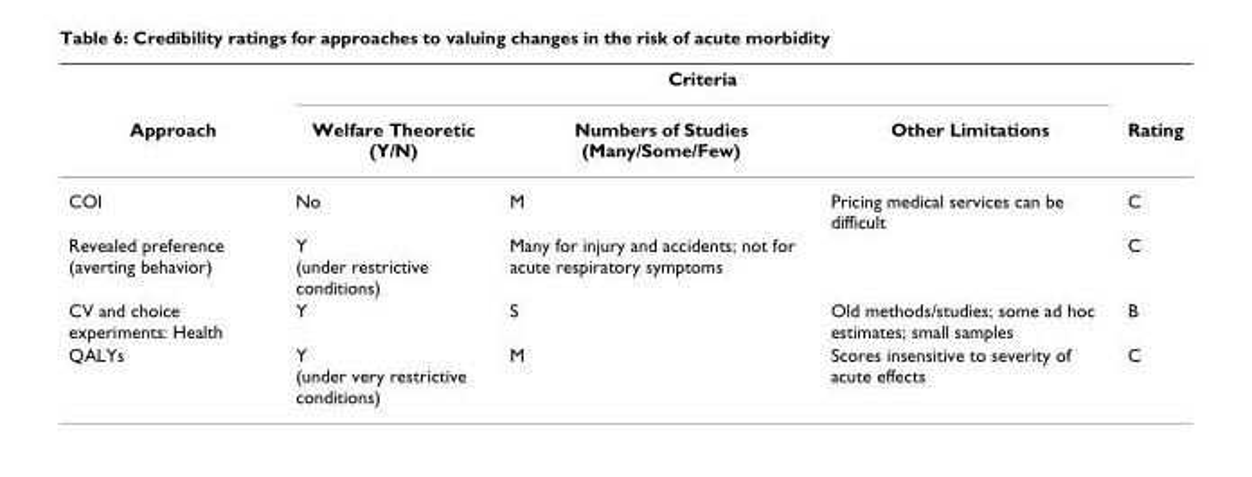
<table><thead><tr><td rowspan="2">Approach</td><td colspan="3">Criteria</td><td rowspan="2">Rating</td></tr><tr><td>Welfare Theoretic (Y/N)</td><td>Numbers of Studies (Many/Some/Few)</td><td>Other Limitations</td></tr></thead><tbody><tr><td>COI</td><td>No</td><td>M</td><td>Pricing medical services can be difficult</td><td>C</td></tr><tr><td>Revealed preference (averting behavior)</td><td>Y (under restrictive conditions)</td><td>Many for injury and accidents; not for acute respiratory symptoms</td><td></td><td>C</td></tr><tr><td>CV and choice experiments: Health</td><td>Y</td><td>S</td><td>Old methods/studies; some ad hoc estimates; small samples</td><td>B</td></tr><tr><td>QALYs</td><td>Y (under very restrictive conditions)</td><td>M</td><td>Scores insensitive to severity of acute effects</td><td>C</td></tr></tbody></table>